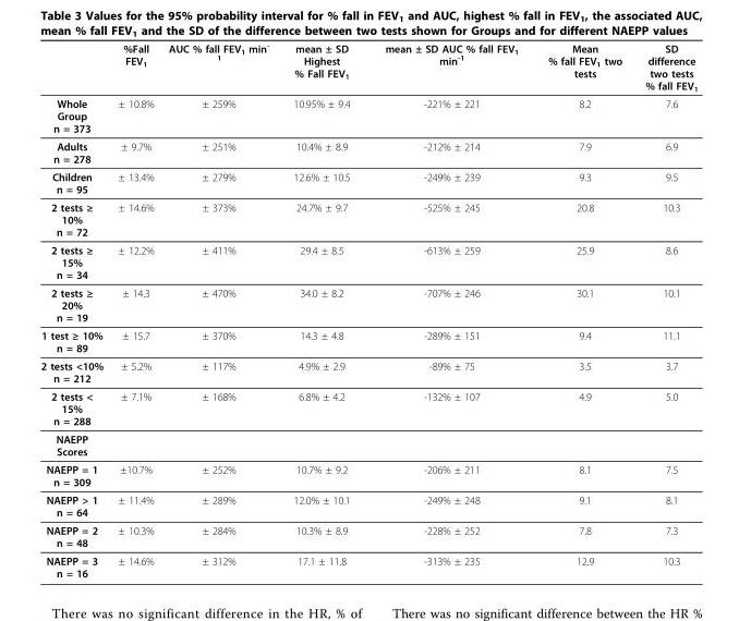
<table><thead><tr><td></td><td>%Fall FEV<sub>1</sub></td><td>AUC % fall FEV<sub>1</sub> min<sup>- 1</sup></td><td>mean ± SD Highest % Fall FEV<sub>1</sub></td><td>mean ± SD AUC % fall FEV<sub>1</sub> min<sup>-1</sup></td><td>Mean % fall FEV<sub>1</sub> two tests</td><td>SD difference two tests % fall FEV<sub>1</sub></td></tr></thead><tbody><tr><td>Whole Group n = 373</td><td>± 10.8%</td><td>± 259%</td><td>10.95% ± 9.4</td><td>-221% ± 221</td><td>8.2</td><td>7.6</td></tr><tr><td>Adults n = 278</td><td>± 9.7%</td><td>± 251%</td><td>10.4% ± 8.9</td><td>-212% ± 214</td><td>7.9</td><td>6.9</td></tr><tr><td>Children n = 95</td><td>± 13.4%</td><td>± 279%</td><td>12.6% ± 10.5</td><td>-249% ± 239</td><td>9.3</td><td>9.5</td></tr><tr><td>2 tests ≥ 10% n = 72</td><td>± 14.6%</td><td>± 373%</td><td>24.7% ± 9.7</td><td>-525% ± 245</td><td>20.8</td><td>10.3</td></tr><tr><td>2 tests ≥ 15% n = 34</td><td>± 12.2%</td><td>± 411%</td><td>29.4 ± 8.5</td><td>-613% ± 259</td><td>25.9</td><td>8.6</td></tr><tr><td>2 tests ≥ 20% n = 19</td><td>± 14.3</td><td>± 470%</td><td>34.0 ± 8.2</td><td>-707% ± 246</td><td>30.1</td><td>10.1</td></tr><tr><td>1 test ≥ 10% n = 89</td><td>± 15.7</td><td>± 370%</td><td>14.3 ± 4.8</td><td>-289% ± 151</td><td>9.4</td><td>11.1</td></tr><tr><td>2 tests &lt;10% n = 212</td><td>± 5.2%</td><td>± 117%</td><td>4.9% ± 2.9</td><td>-89% ± 75</td><td>3.5</td><td>3.7</td></tr><tr><td>2 tests &lt; 15% n = 288</td><td>± 7.1%</td><td>± 168%</td><td>6.8% ± 4.2</td><td>-132% ± 107</td><td>4.9</td><td>5.0</td></tr><tr><td colspan="7">NAEPP Scores</td></tr><tr><td>NAEPP = 1 n = 309</td><td>±10.7%</td><td>± 252%</td><td>10.7% ± 9.2</td><td>-206% ± 211</td><td>8.1</td><td>7.5</td></tr><tr><td>NAEPP &gt; 1 n = 64</td><td>± 11.4%</td><td>± 289%</td><td>12.0% ± 10.1</td><td>-249% ± 248</td><td>9.1</td><td>8.1</td></tr><tr><td>NAEPP = 2 n = 48</td><td>± 10.3%</td><td>± 284%</td><td>10.3% ± 8.9</td><td>-228% ± 252</td><td>7.8</td><td>7.3</td></tr><tr><td>NAEPP = 3 n = 16</td><td>± 14.6%</td><td>± 312%</td><td>17.1 ± 11.8</td><td>-313% ± 235</td><td>12.9</td><td>10.3</td></tr></tbody></table>